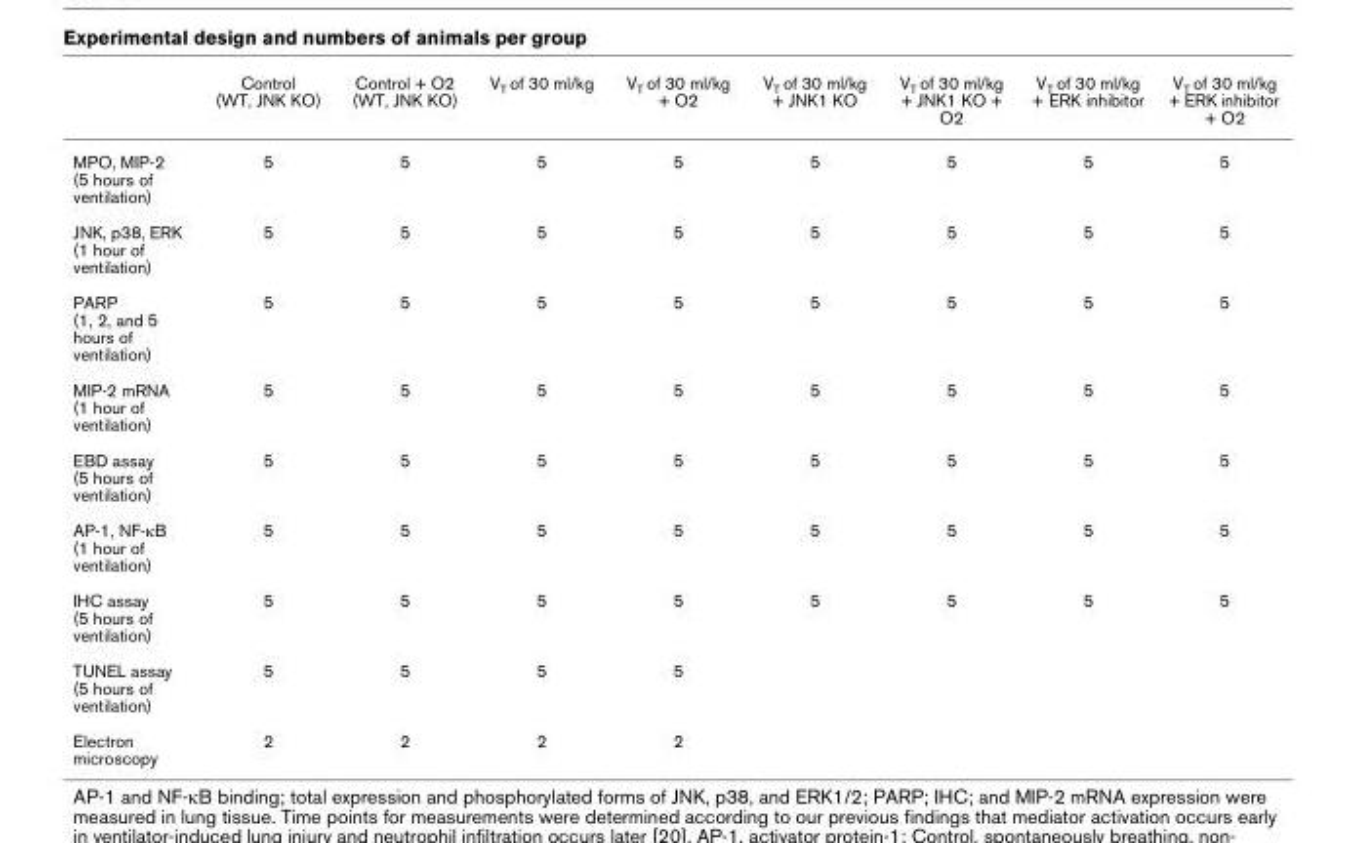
<table><thead><tr><td></td><td>Control (WT, JNK KO)</td><td>Control + O2 (WT, JNK KO)</td><td>V<sub>T</sub> of 30 ml/kg</td><td>V<sub>T</sub> of 30 ml/kg + O2</td><td>V<sub>T</sub> of 30 ml/kg + JNK1 KO</td><td>V<sub>T</sub> of 30 ml/kg + JNK1 KO + O2</td><td>V<sub>T</sub> of 30 ml/kg + ERK inhibitor</td><td>V<sub>T</sub> of 30 ml/kg + ERK inhibitor + O2</td></tr></thead><tbody><tr><td>MPO, MIP-2 (5 hours of ventilation)</td><td>5</td><td>5</td><td>5</td><td>5</td><td>5</td><td>5</td><td>5</td><td>5</td></tr><tr><td>JNK, p38, ERK (1 hour of ventilation)</td><td>5</td><td>5</td><td>5</td><td>5</td><td>5</td><td>5</td><td>5</td><td>5</td></tr><tr><td>PARP (1, 2, and 5 hours of ventilation)</td><td>5</td><td>5</td><td>5</td><td>5</td><td>5</td><td>5</td><td>5</td><td>5</td></tr><tr><td>MIP-2 mRNA (1 hour of ventilation)</td><td>5</td><td>5</td><td>5</td><td>5</td><td>5</td><td>5</td><td>5</td><td>5</td></tr><tr><td>EBD assay (5 hours of ventilation)</td><td>5</td><td>5</td><td>5</td><td>5</td><td>5</td><td>5</td><td>5</td><td>5</td></tr><tr><td>AP-1, NF-κB (1 hour of ventilation)</td><td>5</td><td>5</td><td>5</td><td>5</td><td>5</td><td>5</td><td>5</td><td>5</td></tr><tr><td>IHC assay (5 hours of ventilation)</td><td>5</td><td>5</td><td>5</td><td>5</td><td>5</td><td>5</td><td>5</td><td>5</td></tr><tr><td>TUNEL assay (5 hours of ventilation)</td><td>5</td><td>5</td><td>5</td><td>5</td><td></td><td></td><td></td><td></td></tr><tr><td>Electron microscopy</td><td>2</td><td>2</td><td>2</td><td>2</td><td></td><td></td><td></td><td></td></tr></tbody></table>